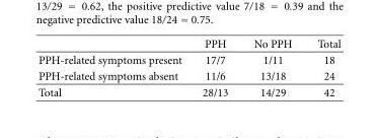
<table><thead><tr><td></td><td>PPH</td><td>No PPH</td><td>Total</td></tr></thead><tbody><tr><td>PPH-related symptoms present</td><td>17/7</td><td>1/11</td><td>18</td></tr><tr><td>PPH-related symptoms absent</td><td>11/6</td><td>13/18</td><td>24</td></tr><tr><td>Total</td><td>28/13</td><td>14/29</td><td>42</td></tr></tbody></table>